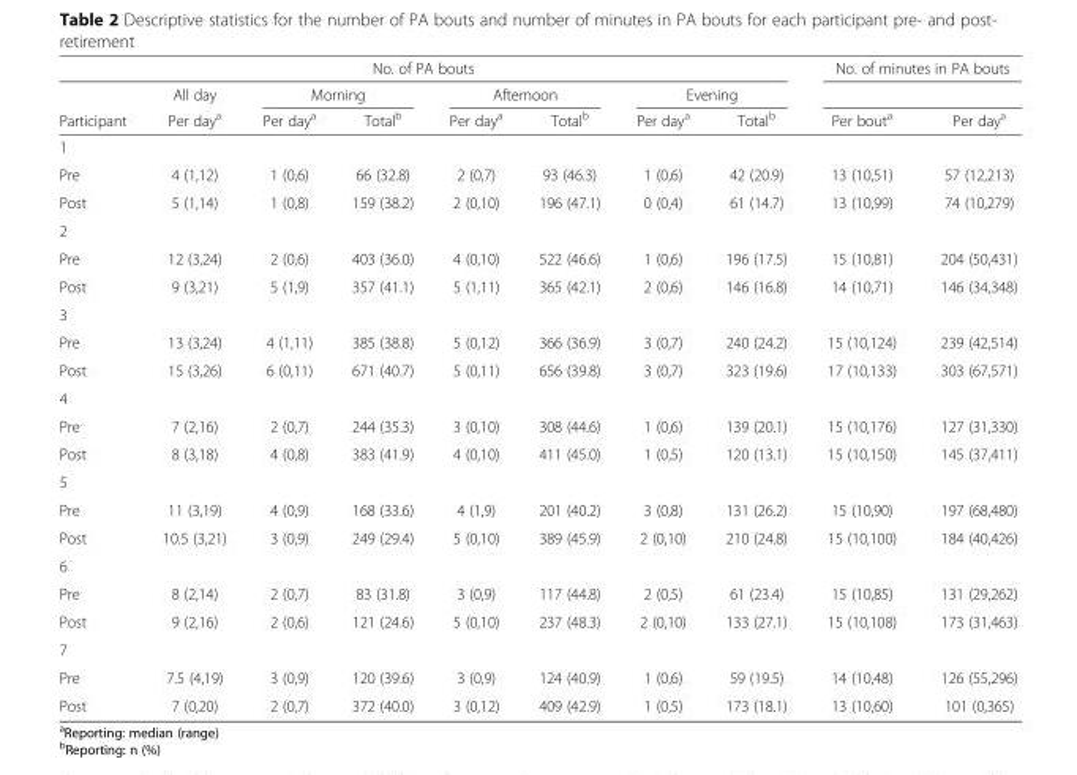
<table><thead><tr><td colspan="8">No. of PA bouts</td><td colspan="2">No. of minutes in PA bouts</td></tr><tr><td rowspan="2">Participant</td><td rowspan="2">All day Per day<sup>a</sup></td><td colspan="2">Morning</td><td colspan="2">Afternoon</td><td colspan="2">Evening</td><td rowspan="2">Per bout<sup>a</sup></td><td rowspan="2">Per day<sup>a</sup></td></tr><tr><td>Per day<sup>a</sup></td><td>Total<sup>b</sup></td><td>Per day<sup>a</sup></td><td>Total<sup>b</sup></td><td>Per day<sup>a</sup></td><td>Total<sup>b</sup></td></tr></thead><tbody><tr><td colspan="10">1</td></tr><tr><td>Pre</td><td>4 (1,12)</td><td>1 (0,6)</td><td>66 (32.8)</td><td>2 (0,7)</td><td>93 (46.3)</td><td>1 (0,6)</td><td>42 (20.9)</td><td>13 (10,51)</td><td>57 (12,213)</td></tr><tr><td>Post</td><td>5 (1,14)</td><td>1 (0,8)</td><td>159 (38.2)</td><td>2 (0,10)</td><td>196 (47.1)</td><td>0 (0,4)</td><td>61 (14.7)</td><td>13 (10,99)</td><td>74 (10,279)</td></tr><tr><td colspan="10">2</td></tr><tr><td>Pre</td><td>12 (3,24)</td><td>2 (0,6)</td><td>403 (36.0)</td><td>4 (0,10)</td><td>522 (46.6)</td><td>1 (0,6)</td><td>196 (17.5)</td><td>15 (10,81)</td><td>204 (50,431)</td></tr><tr><td>Post</td><td>9 (3,21)</td><td>5 (1,9)</td><td>357 (41.1)</td><td>5 (1,11)</td><td>365 (42.1)</td><td>2 (0,6)</td><td>146 (16.8)</td><td>14 (10,71)</td><td>146 (34,348)</td></tr><tr><td colspan="10">3</td></tr><tr><td>Pre</td><td>13 (3,24)</td><td>4 (1,11)</td><td>385 (38.8)</td><td>5 (0,12)</td><td>366 (36.9)</td><td>3 (0,7)</td><td>240 (24.2)</td><td>15 (10,124)</td><td>239 (42,514)</td></tr><tr><td>Post</td><td>15 (3,26)</td><td>6 (0,11)</td><td>671 (40.7)</td><td>5 (0,11)</td><td>656 (39.8)</td><td>3 (0,7)</td><td>323 (19.6)</td><td>17 (10,133)</td><td>303 (67,571)</td></tr><tr><td colspan="10">4</td></tr><tr><td>Pre</td><td>7 (2,16)</td><td>2 (0,7)</td><td>244 (35.3)</td><td>3 (0,10)</td><td>308 (44.6)</td><td>1 (0,6)</td><td>139 (20.1)</td><td>15 (10,176)</td><td>127 (31,330)</td></tr><tr><td>Post</td><td>8 (3,18)</td><td>4 (0,8)</td><td>383 (41.9)</td><td>4 (0,10)</td><td>411 (45.0)</td><td>1 (0,5)</td><td>120 (13.1)</td><td>15 (10,150)</td><td>145 (37,411)</td></tr><tr><td colspan="10">5</td></tr><tr><td>Pre</td><td>11 (3,19)</td><td>4 (0,9)</td><td>168 (33.6)</td><td>4 (1,9)</td><td>201 (40.2)</td><td>3 (0,8)</td><td>131 (26.2)</td><td>15 (10,90)</td><td>197 (68,480)</td></tr><tr><td>Post</td><td>10.5 (3,21)</td><td>3 (0,9)</td><td>249 (29.4)</td><td>5 (0,10)</td><td>389 (45.9)</td><td>2 (0,10)</td><td>210 (24.8)</td><td>15 (10,100)</td><td>184 (40,426)</td></tr><tr><td colspan="10">6</td></tr><tr><td>Pre</td><td>8 (2,14)</td><td>2 (0,7)</td><td>83 (31.8)</td><td>3 (0,9)</td><td>117 (44.8)</td><td>2 (0,5)</td><td>61 (23.4)</td><td>15 (10,85)</td><td>131 (29,262)</td></tr><tr><td>Post</td><td>9 (2,16)</td><td>2 (0,6)</td><td>121 (24.6)</td><td>5 (0,10)</td><td>237 (48.3)</td><td>2 (0,10)</td><td>133 (27.1)</td><td>15 (10,108)</td><td>173 (31,463)</td></tr><tr><td colspan="10">7</td></tr><tr><td>Pre</td><td>7.5 (4,19)</td><td>3 (0,9)</td><td>120 (39.6)</td><td>3 (0,9)</td><td>124 (40.9)</td><td>1 (0,6)</td><td>59 (19.5)</td><td>14 (10,48)</td><td>126 (55,296)</td></tr><tr><td>Post</td><td>7 (0,20)</td><td>2 (0,7)</td><td>372 (40.0)</td><td>3 (0,12)</td><td>409 (42.9)</td><td>1 (0,5)</td><td>173 (18.1)</td><td>13 (10,60)</td><td>101 (0,365)</td></tr></tbody></table>